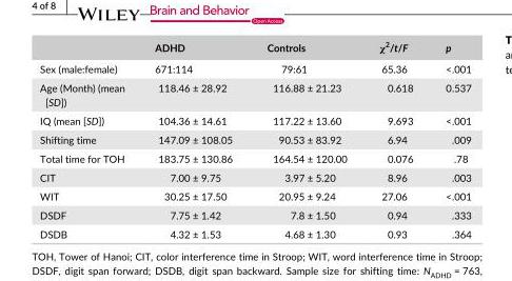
<table><thead><tr><td></td><td>ADHD</td><td>Controls</td><td>χ<sup>2</sup>/t/F</td><td>p</td></tr></thead><tbody><tr><td>Sex (male:female)</td><td>671:114</td><td>79:61</td><td>65.36</td><td>&lt;.001</td></tr><tr><td>Age (Month) (mean [SD])</td><td>118.46 ± 28.92</td><td>116.88 ± 21.23</td><td>0.618</td><td>0.537</td></tr><tr><td>IQ (mean [SD])</td><td>104.36 ± 14.61</td><td>117.22 ± 13.60</td><td>9.693</td><td>&lt;.001</td></tr><tr><td>Shifting time</td><td>147.09 ± 108.05</td><td>90.53 ± 83.92</td><td>6.94</td><td>.009</td></tr><tr><td>Total time for TOH</td><td>183.75 ± 130.86</td><td>164.54 ± 120.00</td><td>0.076</td><td>.78</td></tr><tr><td>CIT</td><td>7.00 ± 9.75</td><td>3.97 ± 5.20</td><td>8.96</td><td>.003</td></tr><tr><td>WIT</td><td>30.25 ± 17.50</td><td>20.95 ± 9.24</td><td>27.06</td><td>&lt;.001</td></tr><tr><td>DSDF</td><td>7.75 ± 1.42</td><td>7.8 ± 1.50</td><td>0.94</td><td>.333</td></tr><tr><td>DSDB</td><td>4.32 ± 1.53</td><td>4.68 ± 1.30</td><td>0.93</td><td>.364</td></tr></tbody></table>